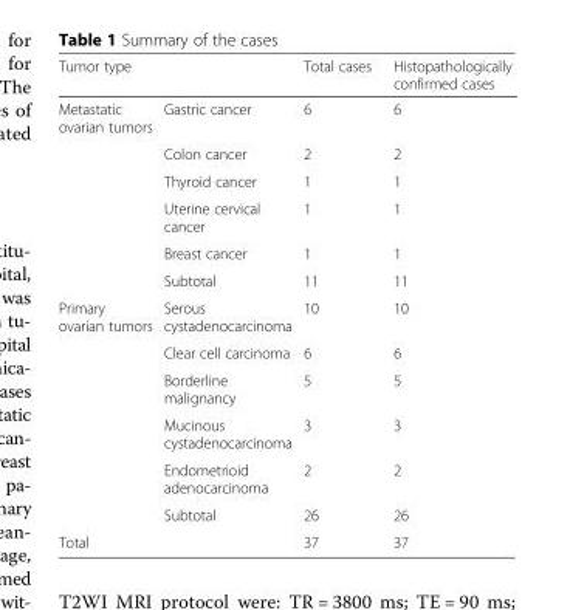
<table><thead><tr><td colspan="2">Tumor type</td><td rowspan="2">Total cases 6</td><td rowspan="2">Histopathologically confirmed cases 6</td></tr><tr><td>Metastatic ovarian tumors</td><td>Gastric cancer</td></tr></thead><tbody><tr><td></td><td>Colon cancer</td><td>2</td><td>2</td></tr><tr><td></td><td>Thyroid cancer</td><td>1</td><td>1</td></tr><tr><td></td><td>Uterine cervical cancer</td><td>1</td><td>1</td></tr><tr><td></td><td>Breast cancer</td><td>1</td><td>1</td></tr><tr><td></td><td>Subtotal</td><td>11</td><td>11</td></tr><tr><td rowspan="6">Primary ovarian tumors</td><td>Serous cystadenocarcinoma</td><td>10</td><td>10</td></tr><tr><td>Clear cell carcinoma</td><td>6</td><td>6</td></tr><tr><td>Borderline malignancy</td><td>5</td><td>5</td></tr><tr><td>Mucinous cystadenocarcinoma</td><td>3</td><td>3</td></tr><tr><td>Endometrioid adenocarcinoma</td><td>2</td><td>2</td></tr><tr><td>Subtotal</td><td>26</td><td>26</td></tr><tr><td>Total</td><td></td><td>37</td><td>37</td></tr></tbody></table>